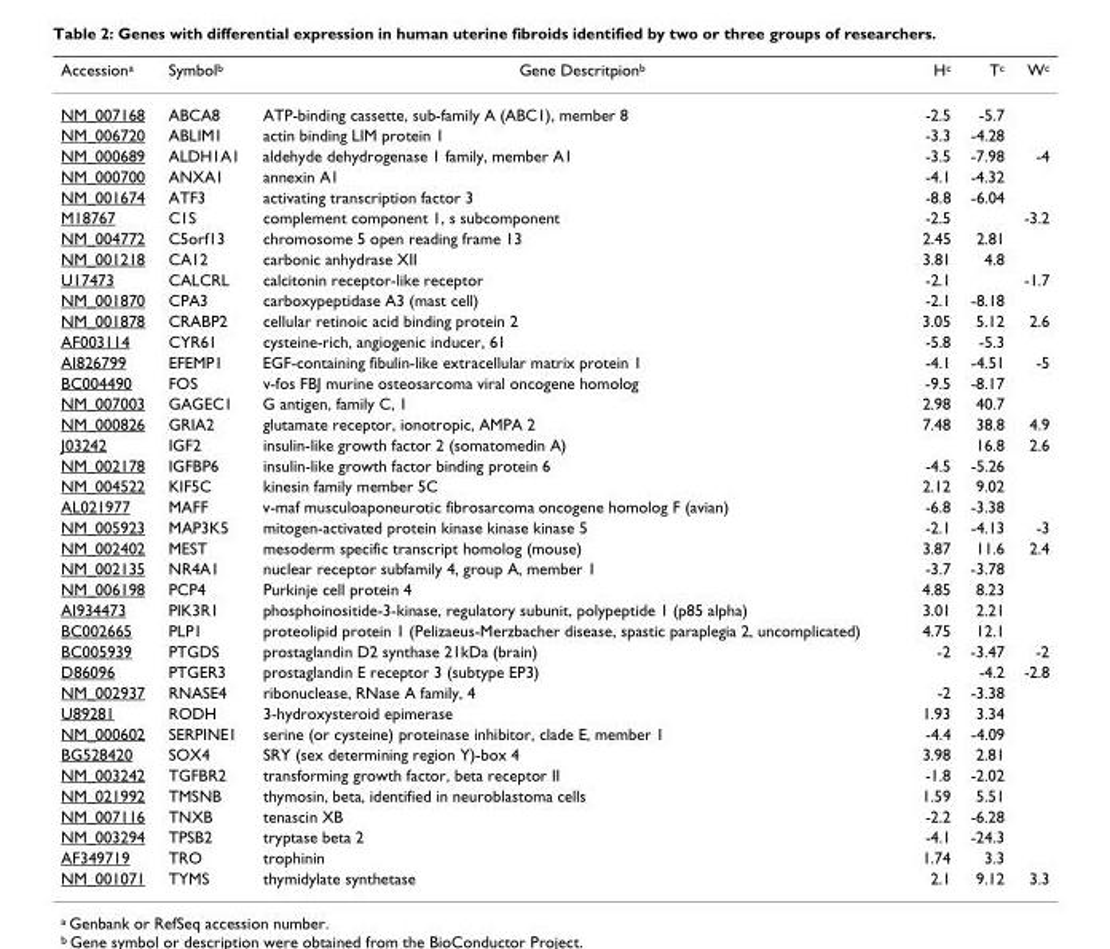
<table><thead><tr><td>Accession<sup>a</sup></td><td>Symbol<sup>b</sup></td><td>Gene Descritpion<sup>b</sup></td><td>H<sup>c</sup></td><td>T<sup>c</sup></td><td>W<sup>c</sup></td></tr></thead><tbody><tr><td>NM_007168</td><td>ABCA8</td><td>ATP-binding cassette, sub-family A (ABC1), member 8</td><td>-2.5</td><td>-5.7</td><td></td></tr><tr><td>NM_006720</td><td>ABLIM1</td><td>actin binding LIM protein 1</td><td>-3.3</td><td>-4.28</td><td></td></tr><tr><td>NM_000689</td><td>ALDH1A1</td><td>aldehyde dehydrogenase 1 family, member A1</td><td>-3.5</td><td>-7.98</td><td>-4</td></tr><tr><td>NM_000700</td><td>ANXA1</td><td>annexin A1</td><td>-4.1</td><td>-4.32</td><td></td></tr><tr><td>NM_001674</td><td>ATF3</td><td>activating transcription factor 3</td><td>-8.8</td><td>-6.04</td><td></td></tr><tr><td>M18767</td><td>C1S</td><td>complement component 1, s subcomponent</td><td>-2.5</td><td></td><td>-3.2</td></tr><tr><td>NM_004772</td><td>C5orf13</td><td>chromosome 5 open reading frame 13</td><td>2.45</td><td>2.81</td><td></td></tr><tr><td>NM_001218</td><td>CA12</td><td>carbonic anhydrase XII</td><td>3.81</td><td>4.8</td><td></td></tr><tr><td>U17473</td><td>CALCRL</td><td>calcitonin receptor-like receptor</td><td>-2.1</td><td></td><td>-1.7</td></tr><tr><td>NM_001870</td><td>CPA3</td><td>carboxypeptidase A3 (mast cell)</td><td>-2.1</td><td>-8.18</td><td></td></tr><tr><td>NM_001878</td><td>CRABP2</td><td>cellular retinoic acid binding protein 2</td><td>3.05</td><td>5.12</td><td>2.6</td></tr><tr><td>AF003114</td><td>CYR61</td><td>cysteine-rich, angiogenic inducer, 61</td><td>-5.8</td><td>-5.3</td><td></td></tr><tr><td>AI826799</td><td>EFEMP1</td><td>EGF-containing fibulin-like extracellular matrix protein 1</td><td>-4.1</td><td>-4.51</td><td>-5</td></tr><tr><td>BC004490</td><td>FOS</td><td>v-fos FBJ murine osteosarcoma viral oncogene homolog</td><td>-9.5</td><td>-8.17</td><td></td></tr><tr><td>NM_007003</td><td>GAGEC1</td><td>G antigen, family C, 1</td><td>2.98</td><td>40.7</td><td></td></tr><tr><td>NM_000826</td><td>GRIA2</td><td>glutamate receptor, ionotropic, AMPA 2</td><td>7.48</td><td>38.8</td><td>4.9</td></tr><tr><td>J03242</td><td>IGF2</td><td>insulin-like growth factor 2 (somatomedin A)</td><td></td><td>16.8</td><td>2.6</td></tr><tr><td>NM_002178</td><td>IGFBP6</td><td>insulin-like growth factor binding protein 6</td><td>-4.5</td><td>-5.26</td><td></td></tr><tr><td>NM_004522</td><td>KIF5C</td><td>kinesin family member 5C</td><td>2.12</td><td>9.02</td><td></td></tr><tr><td>AL021977</td><td>MAFF</td><td>v-maf musculoaponeurotic fibrosarcoma oncogene homolog F (avian)</td><td>-6.8</td><td>-3.38</td><td></td></tr><tr><td>NM_005923</td><td>MAP3K5</td><td>mitogen-activated protein kinase kinase kinase 5</td><td>-2.1</td><td>-4.13</td><td>-3</td></tr><tr><td>NM_002402</td><td>MEST</td><td>mesoderm specific transcript homolog (mouse)</td><td>3.87</td><td>11.6</td><td>2.4</td></tr><tr><td>NM_002135</td><td>NR4A1</td><td>nuclear receptor subfamily 4, group A, member 1</td><td>-3.7</td><td>-3.78</td><td></td></tr><tr><td>NM_006198</td><td>PCP4</td><td>Purkinje cell protein 4</td><td>4.85</td><td>8.23</td><td></td></tr><tr><td>AI934473</td><td>PIK3R1</td><td>phosphoinositide-3-kinase, regulatory subunit, polypeptide 1 (p85 alpha)</td><td>3.01</td><td>2.21</td><td></td></tr><tr><td>BC002665</td><td>PLP1</td><td>proteolipid protein 1 (Pelizaeus-Merzbacher disease, spastic paraplegia 2, uncomplicated)</td><td>4.75</td><td>12.1</td><td></td></tr><tr><td>BC005939</td><td>PTGDS</td><td>prostaglandin D2 synthase 21kDa (brain)</td><td>-2</td><td>-3.47</td><td>-2</td></tr><tr><td>D86096</td><td>PTGER3</td><td>prostaglandin E receptor 3 (subtype EP3)</td><td></td><td>-4.2</td><td>-2.8</td></tr><tr><td>NM_002937</td><td>RNASE4</td><td>ribonuclease, RNase A family, 4</td><td>-2</td><td>-3.38</td><td></td></tr><tr><td>U89281</td><td>RODH</td><td>3-hydroxysteroid epimerase</td><td>1.93</td><td>3.34</td><td></td></tr><tr><td>NM_000602</td><td>SERPINE1</td><td>serine (or cysteine) proteinase inhibitor, clade E, member 1</td><td>-4.4</td><td>-4.09</td><td></td></tr><tr><td>BG528420</td><td>SOX4</td><td>SRY (sex determining region Y)-box 4</td><td>3.98</td><td>2.81</td><td></td></tr><tr><td>NM_003242</td><td>TGFBR2</td><td>transforming growth factor, beta receptor II</td><td>-1.8</td><td>-2.02</td><td></td></tr><tr><td>NM_021992</td><td>TMSNB</td><td>thymosin, beta, identified in neuroblastoma cells</td><td>1.59</td><td>5.51</td><td></td></tr><tr><td>NM_007116</td><td>TNXB</td><td>tenascin XB</td><td>-2.2</td><td>-6.28</td><td></td></tr><tr><td>NM_003294</td><td>TPSB2</td><td>tryptase beta 2</td><td>-4.1</td><td>-24.3</td><td></td></tr><tr><td>AF349719</td><td>TRO</td><td>trophinin</td><td>1.74</td><td>3.3</td><td></td></tr><tr><td>NM_001071</td><td>TYMS</td><td>thymidylate synthetase</td><td>2.1</td><td>9.12</td><td>3.3</td></tr></tbody></table>